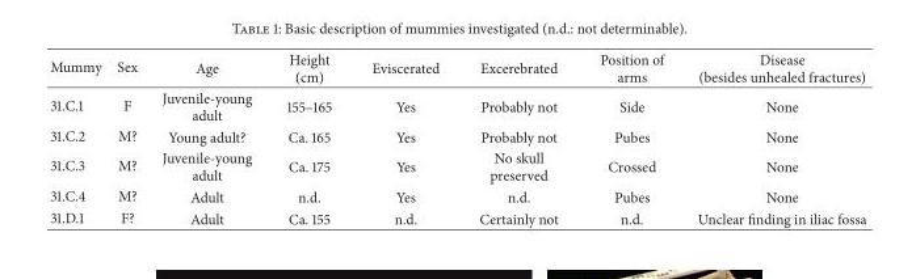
<table><thead><tr><td>Mummy</td><td>Sex</td><td>Age</td><td>Height (cm)</td><td>Eviscerated</td><td>Excerebrated</td><td>Position of arms</td><td>Disease (besides unhealed fractures)</td></tr></thead><tbody><tr><td>31.C.1</td><td>F</td><td>Juvenile-young adult</td><td>155–165</td><td>Yes</td><td>Probably not</td><td>Side</td><td>None</td></tr><tr><td>31.C.2</td><td>M?</td><td>Young adult?</td><td>Ca. 165</td><td>Yes</td><td>Probably not</td><td>Pubes</td><td>None</td></tr><tr><td>31.C.3</td><td>M?</td><td>Juvenile-young adult</td><td>Ca. 175</td><td>Yes</td><td>No skull preserved</td><td>Crossed</td><td>None</td></tr><tr><td>31.C.4</td><td>M?</td><td>Adult</td><td>n.d.</td><td>Yes</td><td>n.d.</td><td>Pubes</td><td>None</td></tr><tr><td>31.D.1</td><td>F?</td><td>Adult</td><td>Ca. 155</td><td>n.d.</td><td>Certainly not</td><td>n.d.</td><td>Unclear finding in iliac fossa</td></tr></tbody></table>